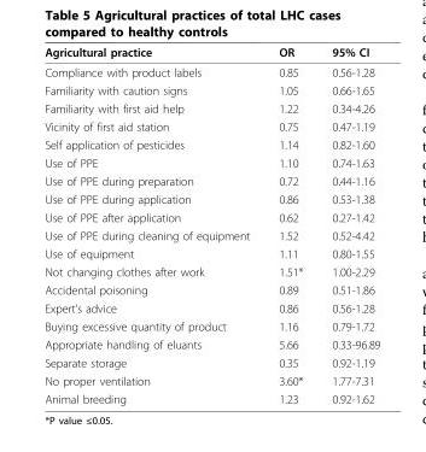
<table><thead><tr><td>Agricultural practice</td><td>OR</td><td>95% CI</td></tr></thead><tbody><tr><td>Compliance with product labels</td><td>0.85</td><td>0.56-1.28</td></tr><tr><td>Familiarity with caution signs</td><td>1.05</td><td>0.66-1.65</td></tr><tr><td>Familiarity with first aid help</td><td>1.22</td><td>0.34-4.26</td></tr><tr><td>Vicinity of first aid station</td><td>0.75</td><td>0.47-1.19</td></tr><tr><td>Self application of pesticides</td><td>1.14</td><td>0.82-1.60</td></tr><tr><td>Use of PPE</td><td>1.10</td><td>0.74-1.63</td></tr><tr><td>Use of PPE during preparation</td><td>0.72</td><td>0.44-1.16</td></tr><tr><td>Use of PPE during application</td><td>0.86</td><td>0.53-1.38</td></tr><tr><td>Use of PPE after application</td><td>0.62</td><td>0.27-1.42</td></tr><tr><td>Use of PPE during cleaning of equipment</td><td>1.52</td><td>0.52-4.42</td></tr><tr><td>Use of equipment</td><td>1.11</td><td>0.80-1.55</td></tr><tr><td>Not changing clothes after work</td><td>1.51*</td><td>1.00-2.29</td></tr><tr><td>Accidental poisoning</td><td>0.89</td><td>0.51-1.86</td></tr><tr><td>Expert’s advice</td><td>0.86</td><td>0.56-1.28</td></tr><tr><td>Buying excessive quantity of product</td><td>1.16</td><td>0.79-1.72</td></tr><tr><td>Appropriate handling of eluants</td><td>5.66</td><td>0.33-96.89</td></tr><tr><td>Separate storage</td><td>0.35</td><td>0.92-1.19</td></tr><tr><td>No proper ventilation</td><td>3.60*</td><td>1.77-7.31</td></tr><tr><td>Animal breeding</td><td>1.23</td><td>0.92-1.62</td></tr></tbody></table>